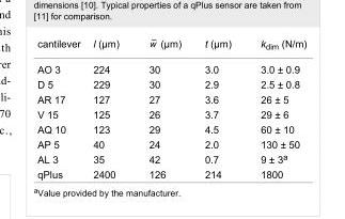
<table><tbody><tr><td>cantilever</td><td>l (μm)</td><td>(μm)</td><td>t (μm)</td><td>k<sub>dim</sub> (N/m)</td></tr><tr><td>AO 3</td><td>224</td><td>30</td><td>3.0</td><td>3.0 ± 0.9</td></tr><tr><td>D 5</td><td>229</td><td>30</td><td>2.9</td><td>2.5 ± 0.8</td></tr><tr><td>AR 17</td><td>127</td><td>27</td><td>3.6</td><td>26 ± 5</td></tr><tr><td>V 15</td><td>125</td><td>26</td><td>3.7</td><td>29 ± 6</td></tr><tr><td>AQ 10</td><td>123</td><td>29</td><td>4.5</td><td>60 ± 10</td></tr><tr><td>AP 5</td><td>40</td><td>24</td><td>2.0</td><td>130 ± 50</td></tr><tr><td>AL 3</td><td>35</td><td>42</td><td>0.7</td><td>9 ± 3<sup>a</sup></td></tr><tr><td>qPlus</td><td>2400</td><td>126</td><td>214</td><td>1800</td></tr></tbody></table>